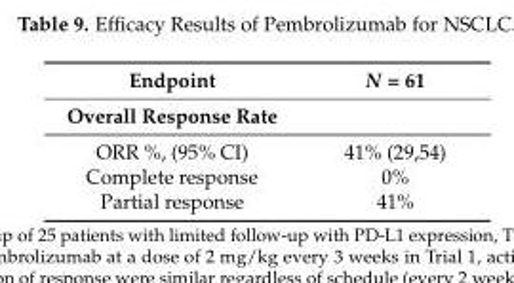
<table><thead><tr><td rowspan="2">Endpoint Overall Response Rate</td><td rowspan="2">N = 61</td></tr><tr></tr></thead><tbody><tr><td>ORR %, (95% CI)</td><td>41% (29,54)</td></tr><tr><td>Complete response</td><td>0%</td></tr><tr><td>Partial response</td><td>41%</td></tr></tbody></table>